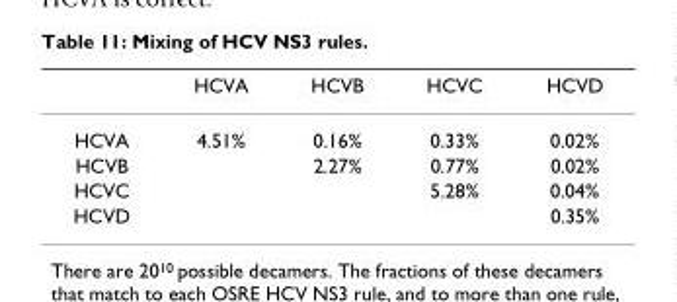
<table><thead><tr><td></td><td>HCVA</td><td>HCVB</td><td>HCVC</td><td>HCVD</td></tr></thead><tbody><tr><td>HCVA</td><td>4.51%</td><td>0.16%</td><td>0.33%</td><td>0.02%</td></tr><tr><td>HCVB</td><td></td><td>2.27%</td><td>0.77%</td><td>0.02%</td></tr><tr><td>HCVC</td><td></td><td></td><td>5.28%</td><td>0.04%</td></tr><tr><td>HCVD</td><td></td><td></td><td></td><td>0.35%</td></tr></tbody></table>